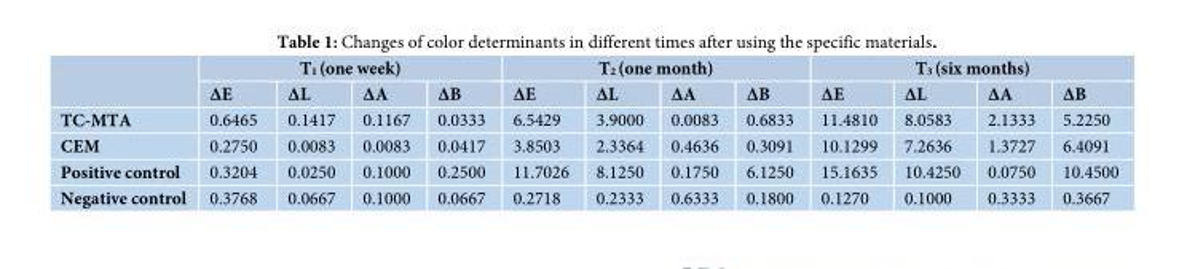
<table><thead><tr><td rowspan="2"></td><td colspan="4">T<sub>1</sub> (one week)</td><td colspan="4">T<sub>2</sub> (one month)</td><td colspan="4">T<sub>3</sub> (six months)</td></tr><tr><td>ΔΕ</td><td>ΔL</td><td>ΔA</td><td>ΔB</td><td>ΔΕ</td><td>ΔL</td><td>ΔA</td><td>ΔB</td><td>ΔΕ</td><td>ΔL</td><td>ΔA</td><td>ΔB</td></tr></thead><tbody><tr><td>TC-MTA</td><td>0.6465</td><td>0.1417</td><td>0.1167</td><td>0.0333</td><td>6.5429</td><td>3.9000</td><td>0.0083</td><td>0.6833</td><td>11.4810</td><td>8.0583</td><td>2.1333</td><td>5.2250</td></tr><tr><td>CEM</td><td>0.2750</td><td>0.0083</td><td>0.0083</td><td>0.0417</td><td>3.8503</td><td>2.3364</td><td>0.4636</td><td>0.3091</td><td>10.1299</td><td>7.2636</td><td>1.3727</td><td>6.4091</td></tr><tr><td>Positive control</td><td>0.3204</td><td>0.0250</td><td>0.1000</td><td>0.2500</td><td>11.7026</td><td>8.1250</td><td>0.1750</td><td>6.1250</td><td>15.1635</td><td>10.4250</td><td>0.0750</td><td>10.4500</td></tr><tr><td>Negative control</td><td>0.3768</td><td>0.0667</td><td>0.1000</td><td>0.0667</td><td>0.2718</td><td>0.2333</td><td>0.6333</td><td>0.1800</td><td>0.1270</td><td>0.1000</td><td>0.3333</td><td>0.3667</td></tr></tbody></table>